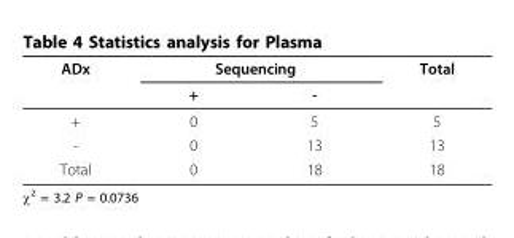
<table><thead><tr><td rowspan="2">ADx</td><td colspan="2">Sequencing</td><td rowspan="2">Total</td></tr><tr><td>+</td><td>-</td></tr></thead><tbody><tr><td>+</td><td>0</td><td>5</td><td>5</td></tr><tr><td>-</td><td>0</td><td>13</td><td>13</td></tr><tr><td>Total</td><td>0</td><td>18</td><td>18</td></tr></tbody></table>